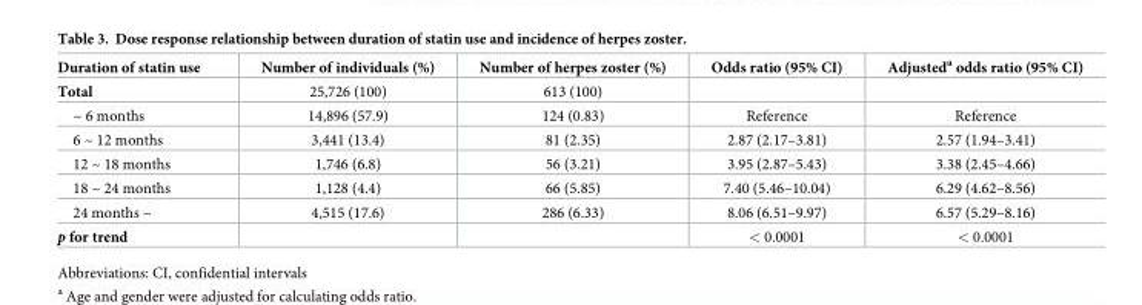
<table><thead><tr><td>Duration of statin use</td><td>Number of individuals (%)</td><td>Number of herpes zoster (%)</td><td>Odds ratio (95% CI)</td><td>Adjusted<sup>a</sup> odds ratio (95% CI)</td></tr></thead><tbody><tr><td>Total</td><td>25,726 (100)</td><td>613 (100)</td><td></td><td></td></tr><tr><td>~ 6 months</td><td>14,896 (57.9)</td><td>124 (0.83)</td><td>Reference</td><td>Reference</td></tr><tr><td>6 ~ 12 months</td><td>3,441 (13.4)</td><td>81 (2.35)</td><td>2.87 (2.17–3.81)</td><td>2.57 (1.94–3.41)</td></tr><tr><td>12 ~ 18 months</td><td>1,746 (6.8)</td><td>56 (3.21)</td><td>3.95 (2.87–5.43)</td><td>3.38 (2.45–4.66)</td></tr><tr><td>18 ~ 24 months</td><td>1,128 (4.4)</td><td>66 (5.85)</td><td>7.40 (5.46–10.04)</td><td>6.29 (4.62–8.56)</td></tr><tr><td>24 months ~</td><td>4,515 (17.6)</td><td>286 (6.33)</td><td>8.06 (6.51–9.97)</td><td>6.57 (5.29–8.16)</td></tr><tr><td>p for trend</td><td></td><td></td><td>&lt; 0.0001</td><td>&lt; 0.0001</td></tr></tbody></table>